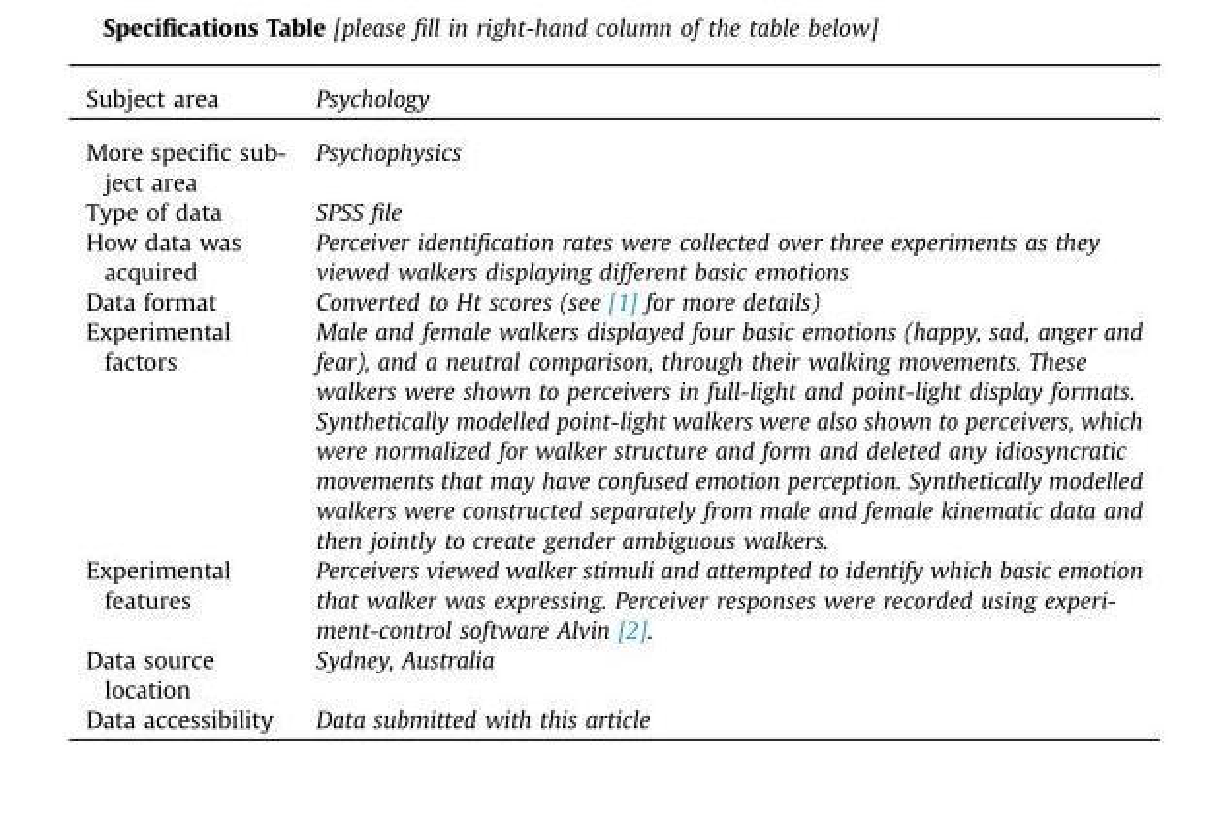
<table><thead><tr><td>Subject area</td><td>Psychology</td></tr></thead><tbody><tr><td>More specific sub- ject area</td><td>Psychophysics</td></tr><tr><td>Type of data</td><td>SPSS file</td></tr><tr><td>How data was acquired</td><td>Perceiver identification rates were collected over three experiments as they viewed walkers displaying different basic emotions</td></tr><tr><td>Data format</td><td>Converted to Ht scores (see [1] for more details)</td></tr><tr><td>Experimental factors</td><td>Male and female walkers displayed four basic emotions (happy, sad, anger and fear), and a neutral comparison, through their walking movements. These walkers were shown to perceivers in full-light and point-light display formats. Synthetically modelled point-light walkers were also shown to perceivers, which were normalized for walker structure and form and deleted any idiosyncratic movements that may have confused emotion perception. Synthetically modelled walkers were constructed separately from male and female kinematic data and then jointly to create gender ambiguous walkers.</td></tr><tr><td>Experimental features</td><td>Perceivers viewed walker stimuli and attempted to identify which basic emotion that walker was expressing. Perceiver responses were recorded using experi- ment-control software Alvin [2].</td></tr><tr><td>Data source location</td><td>Sydney, Australia</td></tr><tr><td>Data accessibility</td><td>Data submitted with this article</td></tr></tbody></table>